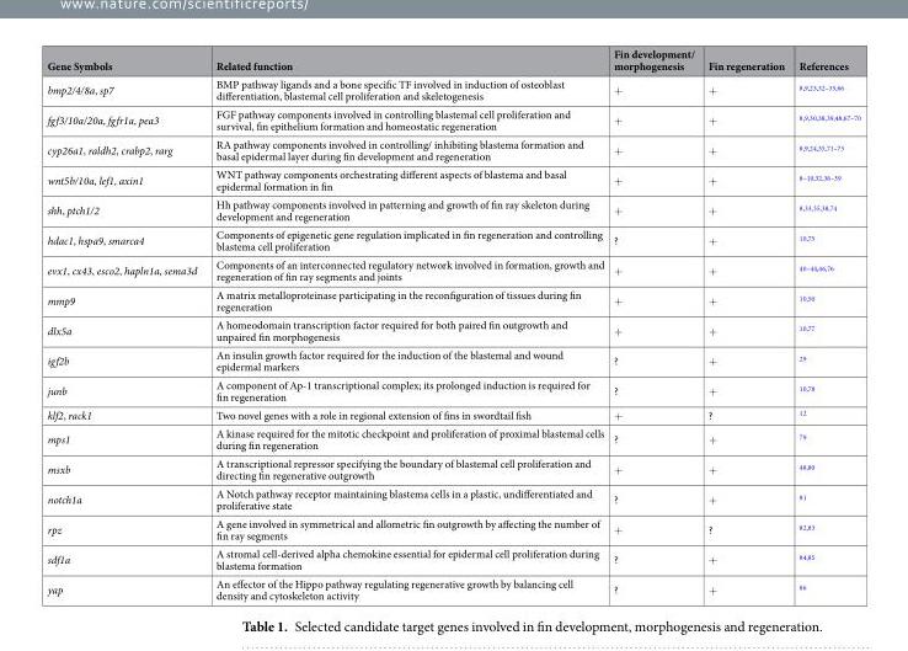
<table><thead><tr><td>Gene Symbols</td><td>Related function</td><td>Fin development/ morphogenesis</td><td>Fin regeneration</td><td>References</td></tr></thead><tbody><tr><td>bmp2/4/8a, sp7</td><td>BMP pathway ligands and a bone specific TF involved in induction of osteoblast differentiation, blastemal cell proliferation and skeletogenesis</td><td>+</td><td>+</td><td><sup>8,9,23,32–35,66</sup></td></tr><tr><td>fgf3/10a/20a, fgfr1a, pea3</td><td>FGF pathway components involved in controlling blastemal cell proliferation and survival, fin epithelium formation and homeostatic regeneration</td><td>+</td><td>+</td><td><sup>8,9,30,38,39,48,67–70</sup></td></tr><tr><td>cyp26a1, raldh2, crabp2, rarg</td><td>RA pathway components involved in controlling/ inhibiting blastema formation and basal epidermal layer during fin development and regeneration</td><td>+</td><td>+</td><td><sup>8,9,24,35,71–73</sup></td></tr><tr><td>wnt5b/10a, lef1, axin1</td><td>WNT pathway components orchestrating different aspects of blastema and basal epidermal formation in fin</td><td>+</td><td>+</td><td><sup>8–10,32,36–39</sup></td></tr><tr><td>shh, ptch1/2</td><td>Hh pathway components involved in patterning and growth of fin ray skeleton during development and regeneration</td><td>+</td><td>+</td><td><sup>8,33,35,38,74</sup></td></tr><tr><td>hdac1, hspa9, smarca4</td><td>Components of epigenetic gene regulation implicated in fin regeneration and controlling blastema cell proliferation</td><td>?</td><td>+</td><td><sup>10,75</sup></td></tr><tr><td>evx1, cx43, esco2, hapln1a, sema3d</td><td>Components of an interconnected regulatory network involved in formation, growth and regeneration of fin ray segments and joints</td><td>+</td><td>+</td><td><sup>40–44,46,76</sup></td></tr><tr><td>mmp9</td><td>A matrix metalloproteinase participating in the reconfiguration of tissues during fin regeneration</td><td>+</td><td>+</td><td><sup>10,50</sup></td></tr><tr><td>dlx5a</td><td>A homeodomain transcription factor required for both paired fin outgrowth and unpaired fin morphogenesis</td><td>+</td><td>+</td><td><sup>10,77</sup></td></tr><tr><td>igf2b</td><td>An insulin growth factor required for the induction of the blastemal and wound epidermal markers</td><td>?</td><td>+</td><td><sup>29</sup></td></tr><tr><td>junb</td><td>A component of Ap-1 transcriptional complex; its prolonged induction is required for fin regeneration</td><td>?</td><td>+</td><td><sup>10,78</sup></td></tr><tr><td>klf2, rack1</td><td>Two novel genes with a role in regional extension of fins in swordtail fish</td><td>+</td><td>?</td><td><sup>12</sup></td></tr><tr><td>mps1</td><td>A kinase required for the mitotic checkpoint and proliferation of proximal blastemal cells during fin regeneration</td><td>?</td><td>+</td><td><sup>79</sup></td></tr><tr><td>msxb</td><td>A transcriptional repressor specifying the boundary of blastemal cell proliferation and directing fin regenerative outgrowth</td><td>+</td><td>+</td><td><sup>48,80</sup></td></tr><tr><td>notch1a</td><td>A Notch pathway receptor maintaining blastema cells in a plastic, undifferentiated and proliferative state</td><td>?</td><td>+</td><td><sup>81</sup></td></tr><tr><td>rpz</td><td>A gene involved in symmetrical and allometric fin outgrowth by affecting the number of fin ray segments</td><td>+</td><td>?</td><td><sup>82,83</sup></td></tr><tr><td>sdf1a</td><td>A stromal cell-derived alpha chemokine essential for epidermal cell proliferation during blastema formation</td><td>?</td><td>+</td><td><sup>84,85</sup></td></tr><tr><td>yap</td><td>An effector of the Hippo pathway regulating regenerative growth by balancing cell density and cytoskeleton activity</td><td>?</td><td>+</td><td><sup>86</sup></td></tr></tbody></table>